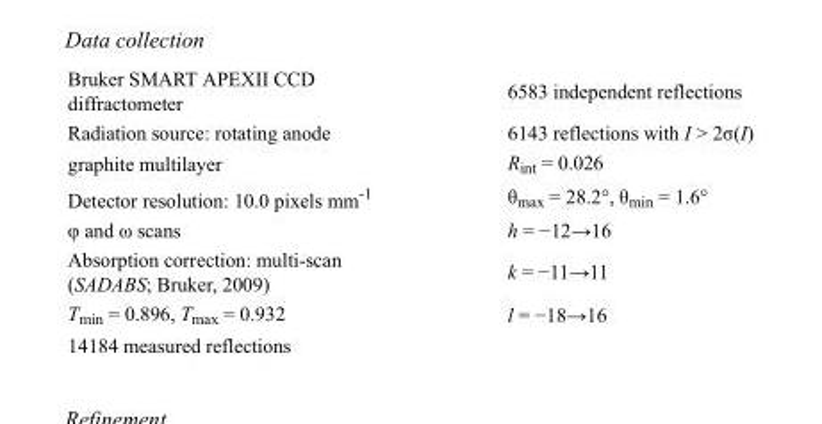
<table><tbody><tr><td>Bruker SMART APEXII CCD diffractometer</td><td>6583 independent reflections</td></tr><tr><td>Radiation source: rotating anode</td><td>6143 reflections with I &gt; 2σ(I)</td></tr><tr><td>graphite multilayer</td><td>R<sub>int</sub> = 0.026</td></tr><tr><td>Detector resolution: 10.0 pixels mm<sup>-1</sup></td><td>θ<sub>max</sub> = 28.2°, θ<sub>min</sub> = 1.6°</td></tr><tr><td>φ and ω scans</td><td>h = −12→16</td></tr><tr><td>Absorption correction: multi-scan (SADABS; Bruker, 2009)</td><td>k = −11→11</td></tr><tr><td>T<sub>min</sub> = 0.896, T<sub>max</sub> = 0.932</td><td>l = −18→16</td></tr><tr><td>14184 measured reflections</td><td></td></tr></tbody></table>